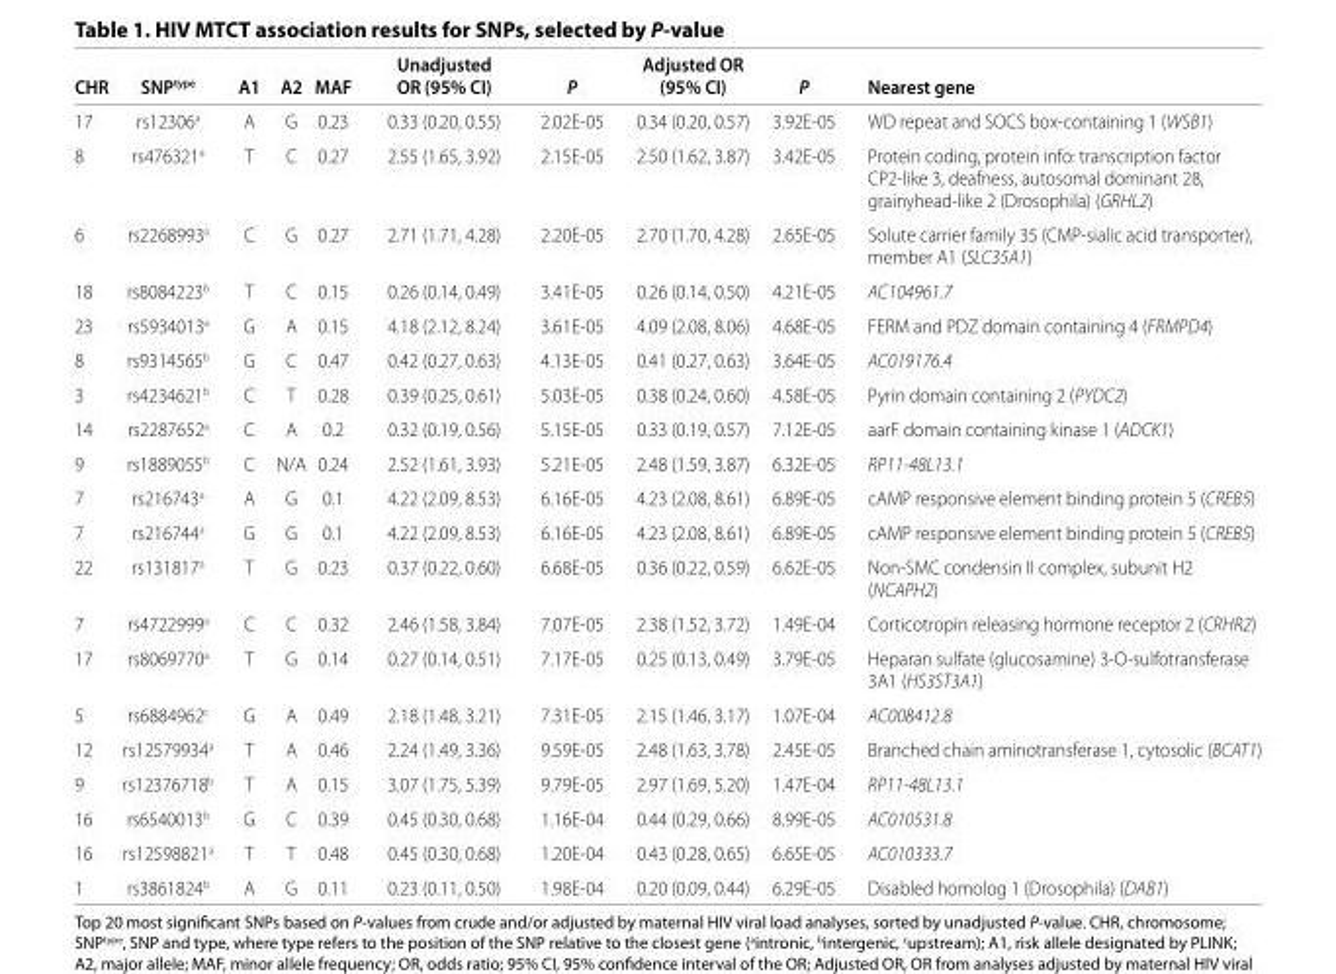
<table><thead><tr><td>CHR</td><td>SNP<sup>type</sup></td><td>A1</td><td>A2</td><td>MAF</td><td>OR (95% CI)</td><td>P</td><td>(95% CI)</td><td>P</td><td>Nearest gene</td></tr></thead><tbody><tr><td>17</td><td>rs12306<sup>a</sup></td><td>A</td><td>G</td><td>0.23</td><td>0.33 (0.20, 0.55)</td><td>2.02E-05</td><td>0.34 (0.20, 0.57)</td><td>3.92E-05</td><td>WD repeat and SOCS box-containing 1 (WSB1)</td></tr><tr><td>8</td><td>rs476321<sup>a</sup></td><td>T</td><td>C</td><td>0.27</td><td>2.55 (1.65, 3.92)</td><td>2.15E-05</td><td>2.50 (1.62, 3.87)</td><td>3.42E-05</td><td>Protein coding, protein info: transcription factor CP2-like 3, deafness, autosomal dominant 28, grainyhead-like 2 (Drosophila) (GRHL2)</td></tr><tr><td>6</td><td>rs2268993<sup>a</sup></td><td>C</td><td>G</td><td>0.27</td><td>2.71 (1.71, 4.28)</td><td>2.20E-05</td><td>2.70 (1.70, 4.28)</td><td>2.65E-05</td><td>Solute carrier family 35 (CMP-sialic acid transporter), member A1 (SLC35A1)</td></tr><tr><td>18</td><td>rs8084223<sup>b</sup></td><td>T</td><td>C</td><td>0.15</td><td>0.26 (0.14, 0.49)</td><td>3.41E-05</td><td>0.26 (0.14, 0.50)</td><td>4.21E-05</td><td>AC104961.7</td></tr><tr><td>23</td><td>rs5934013<sup>a</sup></td><td>G</td><td>A</td><td>0.15</td><td>4.18 (2.12, 8.24)</td><td>3.61E-05</td><td>4.09 (2.08, 8.06)</td><td>4.68E-05</td><td>FERM and PDZ domain containing 4 (FRMPD4)</td></tr><tr><td>8</td><td>rs9314565<sup>b</sup></td><td>G</td><td>C</td><td>0.47</td><td>0.42 (0.27, 0.63)</td><td>4.13E-05</td><td>0.41 (0.27, 0.63)</td><td>3.64E-05</td><td>AC019176.4</td></tr><tr><td>3</td><td>rs4234621<sup>b</sup></td><td>C</td><td>T</td><td>0.28</td><td>0.39 (0.25, 0.61)</td><td>5.03E-05</td><td>0.38 (0.24, 0.60)</td><td>4.58E-05</td><td>Pyrin domain containing 2 (PYDC2)</td></tr><tr><td>14</td><td>rs2287652<sup>a</sup></td><td>C</td><td>A</td><td>0.2</td><td>0.32 (0.19, 0.56)</td><td>5.15E-05</td><td>0.33 (0.19, 0.57)</td><td>7.12E-05</td><td>aarF domain containing kinase 1 (ADCK1)</td></tr><tr><td>9</td><td>rs1889055<sup>b</sup></td><td>C</td><td>N/A</td><td>0.24</td><td>2.52 (1.61, 3.93)</td><td>5.21E-05</td><td>2.48 (1.59, 3.87)</td><td>6.32E-05</td><td>RP11-48L13.1</td></tr><tr><td>7</td><td>rs216743<sup>a</sup></td><td>A</td><td>G</td><td>0.1</td><td>4.22 (2.09, 8.53)</td><td>6.16E-05</td><td>4.23 (2.08, 8.61)</td><td>6.89E-05</td><td>cAMP responsive element binding protein 5 (CREB5)</td></tr><tr><td>7</td><td>rs216744<sup>a</sup></td><td>G</td><td>G</td><td>0.1</td><td>4.22 (2.09, 8.53)</td><td>6.16E-05</td><td>4.23 (2.08, 8.61)</td><td>6.89E-05</td><td>cAMP responsive element binding protein 5 (CREB5)</td></tr><tr><td>22</td><td>rs131817<sup>a</sup></td><td>T</td><td>G</td><td>0.23</td><td>0.37 (0.22, 0.60)</td><td>6.68E-05</td><td>0.36 (0.22, 0.59)</td><td>6.62E-05</td><td>Non-SMC condensin II complex, subunit H2 (NCAPH2)</td></tr><tr><td>7</td><td>rs4722999<sup>a</sup></td><td>C</td><td>C</td><td>0.32</td><td>2.46 (1.58, 3.84)</td><td>7.07E-05</td><td>2.38 (1.52, 3.72)</td><td>1.49E-04</td><td>Corticotropin releasing hormone receptor 2 (CRHR2)</td></tr><tr><td>17</td><td>rs8069770<sup>a</sup></td><td>T</td><td>G</td><td>0.14</td><td>0.27 (0.14, 0.51)</td><td>7.17E-05</td><td>0.25 (0.13, 0.49)</td><td>3.79E-05</td><td>Heparan sulfate (glucosamine) 3-O-sulfotransferase 3A1 (HS3ST3A1)</td></tr><tr><td>5</td><td>rs6884962<sup>c</sup></td><td>G</td><td>A</td><td>0.49</td><td>2.18 (1.48, 3.21)</td><td>7.31E-05</td><td>2.15 (1.46, 3.17)</td><td>1.07E-04</td><td>AC008412.8</td></tr><tr><td>12</td><td>rs12579934<sup>a</sup></td><td>T</td><td>A</td><td>0.46</td><td>2.24 (1.49, 3.36)</td><td>9.59E-05</td><td>2.48 (1.63, 3.78)</td><td>2.45E-05</td><td>Branched chain aminotransferase 1, cytosolic (BCAT1)</td></tr><tr><td>9</td><td>rs12376718<sup>b</sup></td><td>T</td><td>A</td><td>0.15</td><td>3.07 (1.75, 5.39)</td><td>9.79E-05</td><td>2.97 (1.69, 5.20)</td><td>1.47E-04</td><td>RP11-48L13.1</td></tr><tr><td>16</td><td>rs6540013<sup>b</sup></td><td>G</td><td>C</td><td>0.39</td><td>0.45 (0.30, 0.68)</td><td>1.16E-04</td><td>0.44 (0.29, 0.66)</td><td>8.99E-05</td><td>AC010531.8</td></tr><tr><td>16</td><td>rs12598821<sup>a</sup></td><td>T</td><td>T</td><td>0.48</td><td>0.45 (0.30, 0.68)</td><td>1.20E-04</td><td>0.43 (0.28, 0.65)</td><td>6.65E-05</td><td>AC010333.7</td></tr><tr><td>1</td><td>rs3861824<sup>b</sup></td><td>A</td><td>G</td><td>0.11</td><td>0.23 (0.11, 0.50)</td><td>1.98E-04</td><td>0.20 (0.09, 0.44)</td><td>6.29E-05</td><td>Disabled homolog 1 (Drosophila) (DAB1)</td></tr></tbody></table>